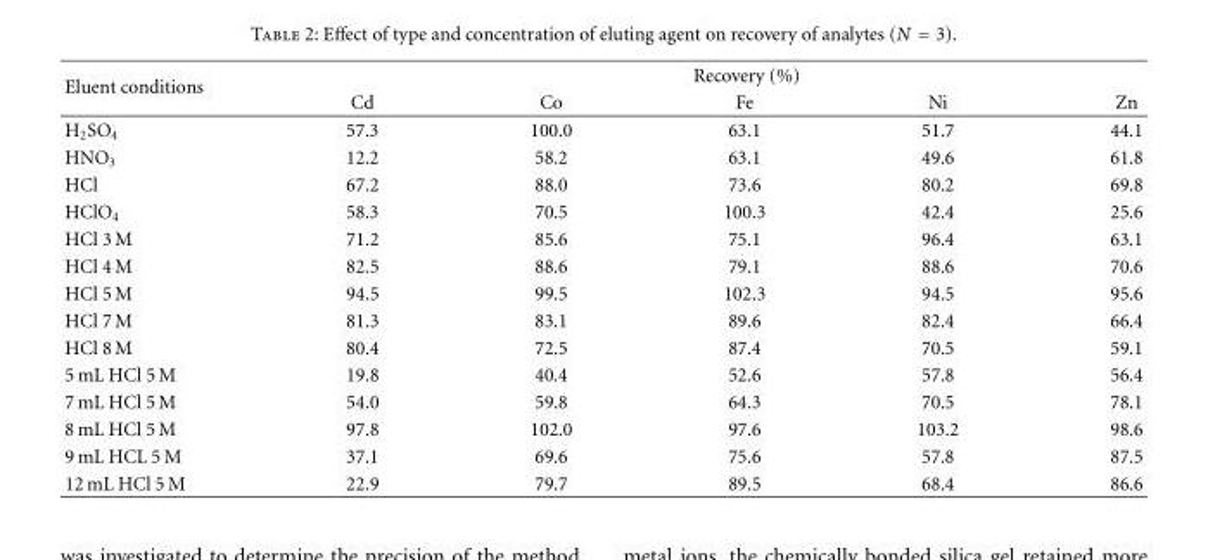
<table><thead><tr><td rowspan="2">Eluent conditions</td><td colspan="5">Recovery (%)</td></tr><tr><td>Cd</td><td>Co</td><td>Fe</td><td>Ni</td><td>Zn</td></tr></thead><tbody><tr><td>H<sub>2</sub>SO<sub>4</sub></td><td>57.3</td><td>100.0</td><td>63.1</td><td>51.7</td><td>44.1</td></tr><tr><td>HNO<sub>3</sub></td><td>12.2</td><td>58.2</td><td>63.1</td><td>49.6</td><td>61.8</td></tr><tr><td>HCl</td><td>67.2</td><td>88.0</td><td>73.6</td><td>80.2</td><td>69.8</td></tr><tr><td>HClO<sub>4</sub></td><td>58.3</td><td>70.5</td><td>100.3</td><td>42.4</td><td>25.6</td></tr><tr><td>HCl 3 M</td><td>71.2</td><td>85.6</td><td>75.1</td><td>96.4</td><td>63.1</td></tr><tr><td>HCl 4 M</td><td>82.5</td><td>88.6</td><td>79.1</td><td>88.6</td><td>70.6</td></tr><tr><td>HCl 5 M</td><td>94.5</td><td>99.5</td><td>102.3</td><td>94.5</td><td>95.6</td></tr><tr><td>HCl 7 M</td><td>81.3</td><td>83.1</td><td>89.6</td><td>82.4</td><td>66.4</td></tr><tr><td>HCl 8 M</td><td>80.4</td><td>72.5</td><td>87.4</td><td>70.5</td><td>59.1</td></tr><tr><td>5 mL HCl 5 M</td><td>19.8</td><td>40.4</td><td>52.6</td><td>57.8</td><td>56.4</td></tr><tr><td>7 mL HCl 5 M</td><td>54.0</td><td>59.8</td><td>64.3</td><td>70.5</td><td>78.1</td></tr><tr><td>8 mL HCl 5 M</td><td>97.8</td><td>102.0</td><td>97.6</td><td>103.2</td><td>98.6</td></tr><tr><td>9 mL HCL 5 M</td><td>37.1</td><td>69.6</td><td>75.6</td><td>57.8</td><td>87.5</td></tr><tr><td>12 mL HCl 5 M</td><td>22.9</td><td>79.7</td><td>89.5</td><td>68.4</td><td>86.6</td></tr></tbody></table>